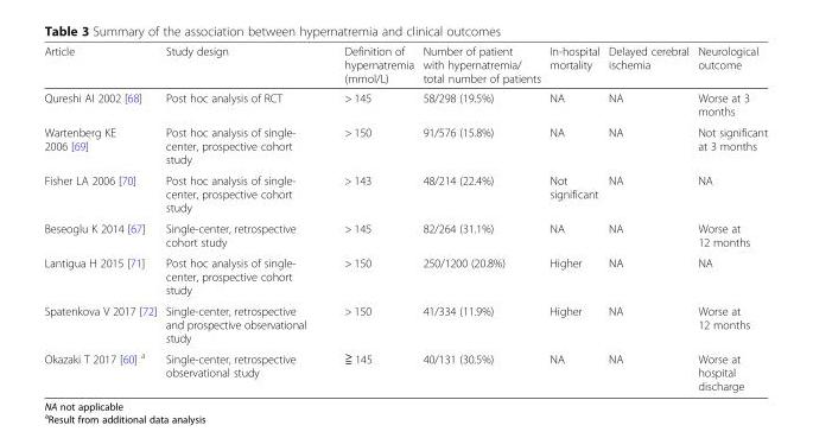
<table><thead><tr><td>Article</td><td>Study design</td><td>Definition of hypernatremia (mmol/L)</td><td>Number of patient with hypernatremia/ total number of patients</td><td>In-hospital mortality</td><td>Delayed cerebral ischemia</td><td>Neurological outcome</td></tr></thead><tbody><tr><td>Qureshi AI 2002 [68]</td><td>Post hoc analysis of RCT</td><td>&gt; 145</td><td>58/298 (19.5%)</td><td>NA</td><td>NA</td><td>Worse at 3 months</td></tr><tr><td>Wartenberg KE 2006 [69]</td><td>Post hoc analysis of single- center, prospective cohort study</td><td>&gt; 150</td><td>91/576 (15.8%)</td><td>NA</td><td>NA</td><td>Not significant at 3 months</td></tr><tr><td>Fisher LA 2006 [70]</td><td>Post hoc analysis of single- center, prospective cohort study</td><td>&gt; 143</td><td>48/214 (22.4%)</td><td>Not significant</td><td>NA</td><td>NA</td></tr><tr><td>Beseoglu K 2014 [67]</td><td>Single-center, retrospective cohort study</td><td>&gt; 145</td><td>82/264 (31.1%)</td><td>NA</td><td>NA</td><td>Worse at 12 months</td></tr><tr><td>Lantigua H 2015 [71]</td><td>Post hoc analysis of single- center, prospective cohort study</td><td>&gt; 150</td><td>250/1200 (20.8%)</td><td>Higher</td><td>NA</td><td>NA</td></tr><tr><td>Spatenkova V 2017 [72]</td><td>Single-center, retrospective and prospective observational study</td><td>&gt; 150</td><td>41/334 (11.9%)</td><td>Higher</td><td>NA</td><td>Worse at 12 months</td></tr><tr><td>Okazaki T 2017 [60] <sup>a</sup></td><td>Single-center, retrospective observational study</td><td>≧ 145</td><td>40/131 (30.5%)</td><td>NA</td><td>NA</td><td>Worse at hospital discharge</td></tr></tbody></table>